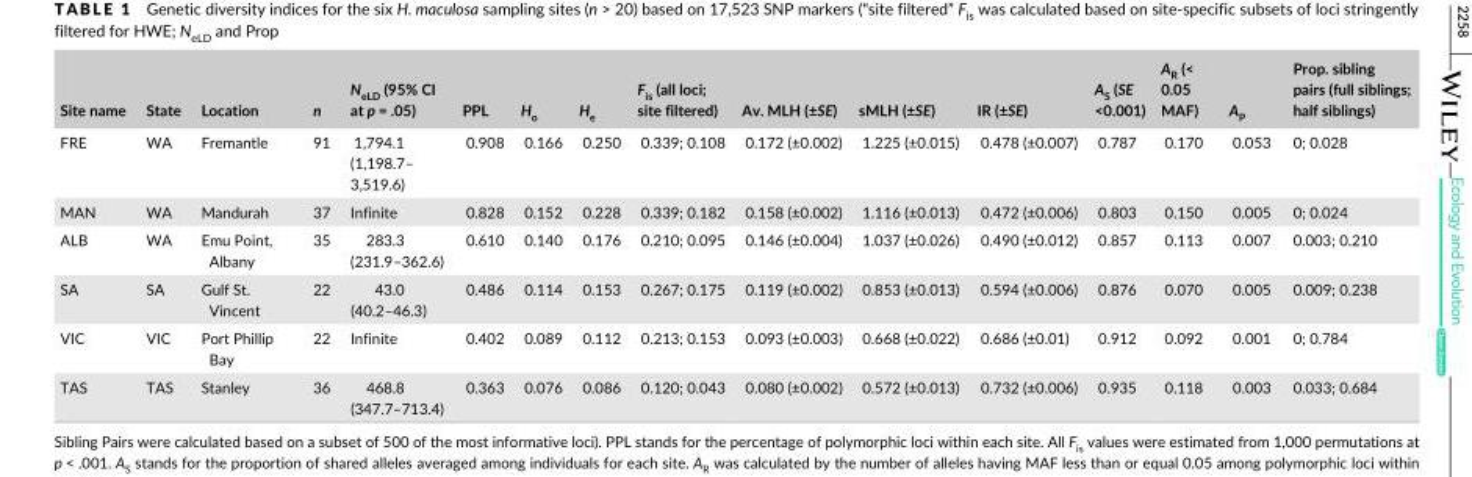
<table><thead><tr><td>Site name</td><td>State</td><td>Location</td><td>n</td><td>N<sub>eLD</sub> (95% CI at p = .05)</td><td>PPL</td><td>H<sub>o</sub></td><td>H<sub>e</sub></td><td>F<sub>is</sub> (all loci; site filtered)</td><td>Av. MLH (±SE)</td><td>sMLH (±SE)</td><td>IR (±SE)</td><td>A<sub>S</sub> (SE &lt;0.001)</td><td>A<sub>R</sub> (&lt; 0.05 MAF)</td><td>A<sub>P</sub></td><td>Prop. sibling pairs (full siblings; half siblings)</td></tr></thead><tbody><tr><td>FRE</td><td>WA</td><td>Fremantle</td><td>91</td><td>1,794.1 (1,198.7– 3,519.6)</td><td>0.908</td><td>0.166</td><td>0.250</td><td>0.339; 0.108</td><td>0.172 (±0.002)</td><td>1.225 (±0.015)</td><td>0.478 (±0.007)</td><td>0.787</td><td>0.170</td><td>0.053</td><td>0; 0.028</td></tr><tr><td>MAN</td><td>WA</td><td>Mandurah</td><td>37</td><td>Infinite</td><td>0.828</td><td>0.152</td><td>0.228</td><td>0.339; 0.182</td><td>0.158 (±0.002)</td><td>1.116 (±0.013)</td><td>0.472 (±0.006)</td><td>0.803</td><td>0.150</td><td>0.005</td><td>0; 0.024</td></tr><tr><td>ALB</td><td>WA</td><td>Emu Point, Albany</td><td>35</td><td>283.3 (231.9–362.6)</td><td>0.610</td><td>0.140</td><td>0.176</td><td>0.210; 0.095</td><td>0.146 (±0.004)</td><td>1.037 (±0.026)</td><td>0.490 (±0.012)</td><td>0.857</td><td>0.113</td><td>0.007</td><td>0.003; 0.210</td></tr><tr><td>SA</td><td>SA</td><td>Gulf St. Vincent</td><td>22</td><td>43.0 (40.2–46.3)</td><td>0.486</td><td>0.114</td><td>0.153</td><td>0.267; 0.175</td><td>0.119 (±0.002)</td><td>0.853 (±0.013)</td><td>0.594 (±0.006)</td><td>0.876</td><td>0.070</td><td>0.005</td><td>0.009; 0.238</td></tr><tr><td>VIC</td><td>VIC</td><td>Port Phillip Bay</td><td>22</td><td>Infinite</td><td>0.402</td><td>0.089</td><td>0.112</td><td>0.213; 0.153</td><td>0.093 (±0.003)</td><td>0.668 (±0.022)</td><td>0.686 (±0.01)</td><td>0.912</td><td>0.092</td><td>0.001</td><td>0; 0.784</td></tr><tr><td>TAS</td><td>TAS</td><td>Stanley</td><td>36</td><td>468.8 (347.7–713.4)</td><td>0.363</td><td>0.076</td><td>0.086</td><td>0.120; 0.043</td><td>0.080 (±0.002)</td><td>0.572 (±0.013)</td><td>0.732 (±0.006)</td><td>0.935</td><td>0.118</td><td>0.003</td><td>0.033; 0.684</td></tr></tbody></table>